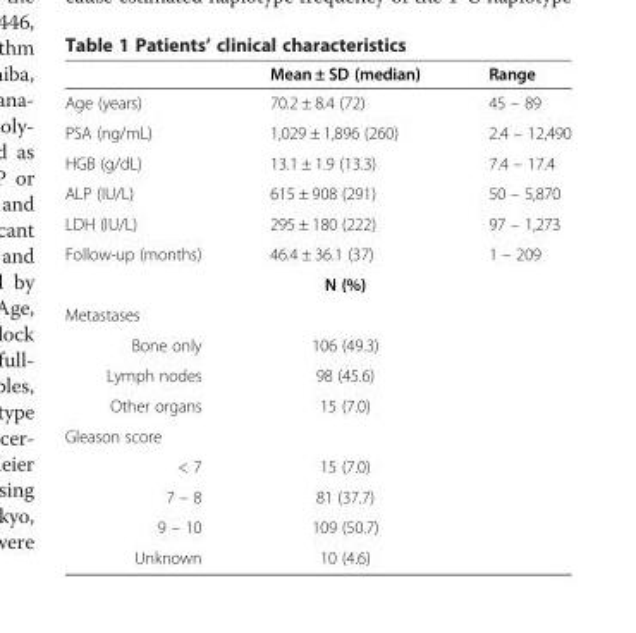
<table><thead><tr><td></td><td>Mean ± SD (median)</td><td>Range</td></tr></thead><tbody><tr><td>Age (years)</td><td>70.2 ± 8.4 (72)</td><td>45 – 89</td></tr><tr><td>PSA (ng/mL)</td><td>1,029 ± 1,896 (260)</td><td>2.4 – 12,490</td></tr><tr><td>HGB (g/dL)</td><td>13.1 ± 1.9 (13.3)</td><td>7.4 – 17.4</td></tr><tr><td>ALP (IU/L)</td><td>615 ± 908 (291)</td><td>50 – 5,870</td></tr><tr><td>LDH (IU/L)</td><td>295 ± 180 (222)</td><td>97 – 1,273</td></tr><tr><td rowspan="2">Follow-up (months)</td><td>46.4 ± 36.1 (37)</td><td>1 – 209</td></tr><tr><td>N (%)</td><td></td></tr><tr><td colspan="3">Metastases</td></tr><tr><td>Bone only</td><td>106 (49.3)</td><td></td></tr><tr><td>Lymph nodes</td><td>98 (45.6)</td><td></td></tr><tr><td>Other organs</td><td>15 (7.0)</td><td></td></tr><tr><td colspan="3">Gleason score</td></tr><tr><td>&lt; 7</td><td>15 (7.0)</td><td></td></tr><tr><td>7 – 8</td><td>81 (37.7)</td><td></td></tr><tr><td>9 – 10</td><td>109 (50.7)</td><td></td></tr><tr><td>Unknown</td><td>10 (4.6)</td><td></td></tr></tbody></table>